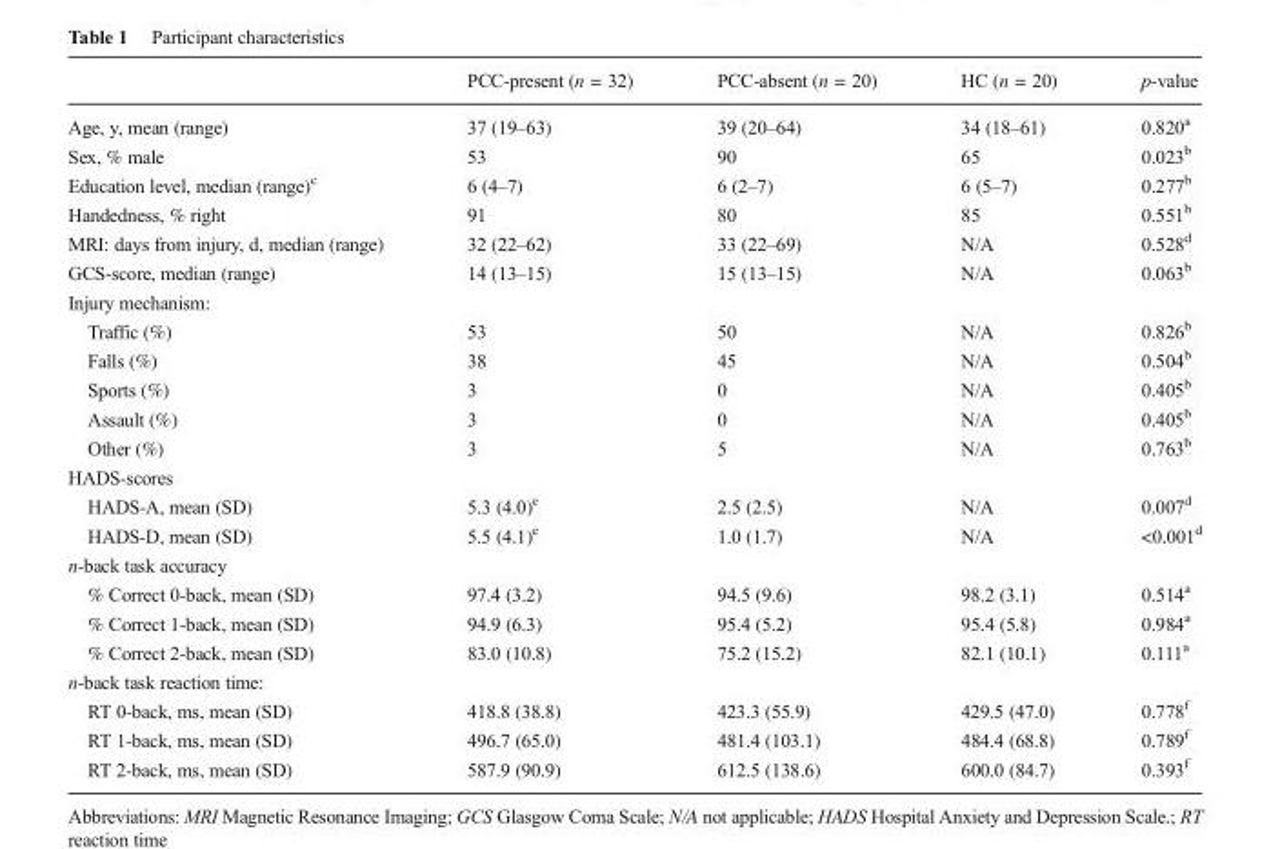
<table><thead><tr><td></td><td>PCC-present (n = 32)</td><td>PCC-absent (n = 20)</td><td>HC (n = 20)</td><td>p-value</td></tr></thead><tbody><tr><td>Age, y, mean (range)</td><td>37 (19–63)</td><td>39 (20–64)</td><td>34 (18–61)</td><td>0.820<sup>a</sup></td></tr><tr><td>Sex, % male</td><td>53</td><td>90</td><td>65</td><td>0.023<sup>b</sup></td></tr><tr><td>Education level, median (range)<sup>c</sup></td><td>6 (4–7)</td><td>6 (2–7)</td><td>6 (5–7)</td><td>0.277<sup>b</sup></td></tr><tr><td>Handedness, % right</td><td>91</td><td>80</td><td>85</td><td>0.551<sup>b</sup></td></tr><tr><td>MRI: days from injury, d, median (range)</td><td>32 (22–62)</td><td>33 (22–69)</td><td>N/A</td><td>0.528<sup>d</sup></td></tr><tr><td>GCS-score, median (range)</td><td>14 (13–15)</td><td>15 (13–15)</td><td>N/A</td><td>0.063<sup>b</sup></td></tr><tr><td colspan="5">Injury mechanism:</td></tr><tr><td>Traffic (%)</td><td>53</td><td>50</td><td>N/A</td><td>0.826<sup>b</sup></td></tr><tr><td>Falls (%)</td><td>38</td><td>45</td><td>N/A</td><td>0.504<sup>b</sup></td></tr><tr><td>Sports (%)</td><td>3</td><td>0</td><td>N/A</td><td>0.405<sup>b</sup></td></tr><tr><td>Assault (%)</td><td>3</td><td>0</td><td>N/A</td><td>0.405<sup>b</sup></td></tr><tr><td>Other (%)</td><td>3</td><td>5</td><td>N/A</td><td>0.763<sup>b</sup></td></tr><tr><td colspan="5">HADS-scores</td></tr><tr><td>HADS-A, mean (SD)</td><td>5.3 (4.0)<sup>e</sup></td><td>2.5 (2.5)</td><td>N/A</td><td>0.007<sup>d</sup></td></tr><tr><td>HADS-D, mean (SD)</td><td>5.5 (4.1)<sup>e</sup></td><td>1.0 (1.7)</td><td>N/A</td><td>&lt;0.001<sup>d</sup></td></tr><tr><td colspan="5">n-back task accuracy</td></tr><tr><td>% Correct 0-back, mean (SD)</td><td>97.4 (3.2)</td><td>94.5 (9.6)</td><td>98.2 (3.1)</td><td>0.514<sup>a</sup></td></tr><tr><td>% Correct 1-back, mean (SD)</td><td>94.9 (6.3)</td><td>95.4 (5.2)</td><td>95.4 (5.8)</td><td>0.984<sup>a</sup></td></tr><tr><td>% Correct 2-back, mean (SD)</td><td>83.0 (10.8)</td><td>75.2 (15.2)</td><td>82.1 (10.1)</td><td>0.111<sup>a</sup></td></tr><tr><td colspan="5">n-back task reaction time:</td></tr><tr><td>RT 0-back, ms, mean (SD)</td><td>418.8 (38.8)</td><td>423.3 (55.9)</td><td>429.5 (47.0)</td><td>0.778<sup>f</sup></td></tr><tr><td>RT 1-back, ms, mean (SD)</td><td>496.7 (65.0)</td><td>481.4 (103.1)</td><td>484.4 (68.8)</td><td>0.789<sup>f</sup></td></tr><tr><td>RT 2-back, ms, mean (SD)</td><td>587.9 (90.9)</td><td>612.5 (138.6)</td><td>600.0 (84.7)</td><td>0.393<sup>f</sup></td></tr></tbody></table>